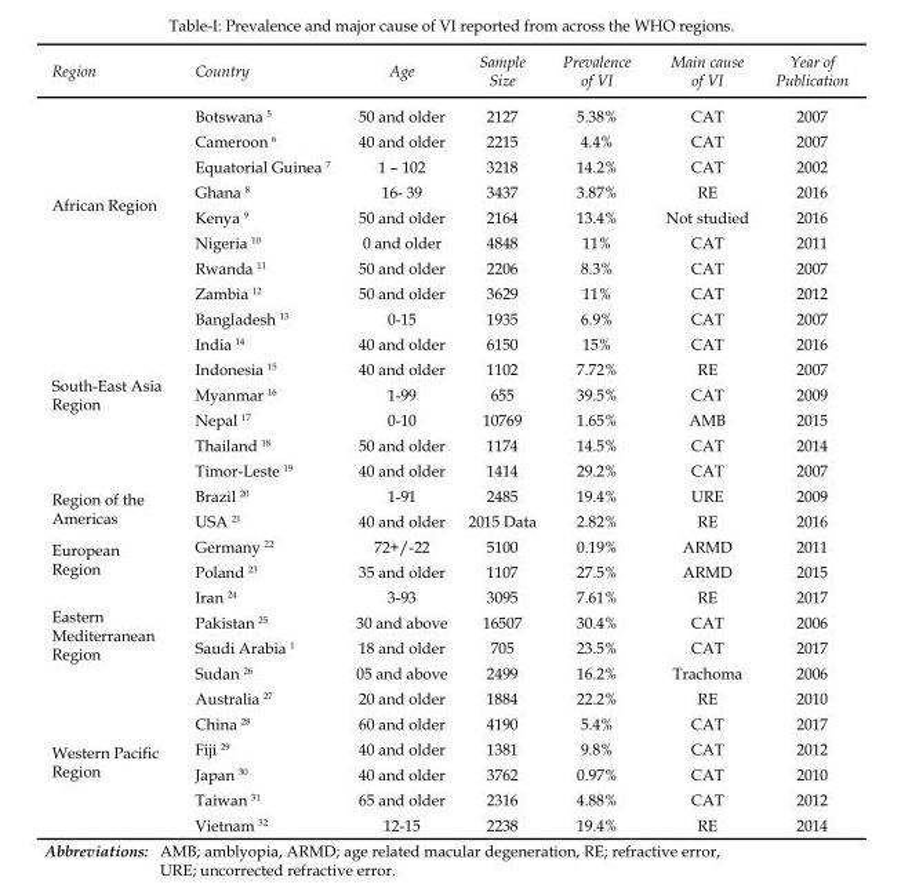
<table><thead><tr><td>Region</td><td>Country</td><td>Age</td><td>Sample Size</td><td>Prevalence of VI</td><td>Main cause of VI</td><td>Year of Publication</td></tr></thead><tbody><tr><td rowspan="8">African Region</td><td>Botswana <sup>5</sup></td><td>50 and older</td><td>2127</td><td>5.38%</td><td>CAT</td><td>2007</td></tr><tr><td>Cameroon <sup>6</sup></td><td>40 and older</td><td>2215</td><td>4.4%</td><td>CAT</td><td>2007</td></tr><tr><td>Equatorial Guinea <sup>7</sup></td><td>1 – 102</td><td>3218</td><td>14.2%</td><td>CAT</td><td>2002</td></tr><tr><td>Ghana <sup>8</sup></td><td>16- 39</td><td>3437</td><td>3.87%</td><td>RE</td><td>2016</td></tr><tr><td>Kenya <sup>9</sup></td><td>50 and older</td><td>2164</td><td>13.4%</td><td>Not studied</td><td>2016</td></tr><tr><td>Nigeria <sup>10</sup></td><td>0 and older</td><td>4848</td><td>11%</td><td>CAT</td><td>2011</td></tr><tr><td>Rwanda <sup>11</sup></td><td>50 and older</td><td>2206</td><td>8.3%</td><td>CAT</td><td>2007</td></tr><tr><td>Zambia <sup>12</sup></td><td>50 and older</td><td>3629</td><td>11%</td><td>CAT</td><td>2012</td></tr><tr><td rowspan="7">South-East Asia Region</td><td>Bangladesh <sup>13</sup></td><td>0-15</td><td>1935</td><td>6.9%</td><td>CAT</td><td>2007</td></tr><tr><td>India <sup>14</sup></td><td>40 and older</td><td>6150</td><td>15%</td><td>CAT</td><td>2016</td></tr><tr><td>Indonesia <sup>15</sup></td><td>40 and older</td><td>1102</td><td>7.72%</td><td>RE</td><td>2007</td></tr><tr><td>Myanmar <sup>16</sup></td><td>1-99</td><td>655</td><td>39.5%</td><td>CAT</td><td>2009</td></tr><tr><td>Nepal <sup>17</sup></td><td>0-10</td><td>10769</td><td>1.65%</td><td>AMB</td><td>2015</td></tr><tr><td>Thailand <sup>18</sup></td><td>50 and older</td><td>1174</td><td>14.5%</td><td>CAT</td><td>2014</td></tr><tr><td>Timor-Leste <sup>19</sup></td><td>40 and older</td><td>1414</td><td>29.2%</td><td>CAT</td><td>2007</td></tr><tr><td rowspan="2">Region of the Americas</td><td>Brazil <sup>20</sup></td><td>1-91</td><td>2485</td><td>19.4%</td><td>URE</td><td>2009</td></tr><tr><td>USA <sup>21</sup></td><td>40 and older</td><td>2015 Data</td><td>2.82%</td><td>RE</td><td>2016</td></tr><tr><td rowspan="2">European Region</td><td>Germany <sup>22</sup></td><td>72+/-22</td><td>5100</td><td>0.19%</td><td>ARMD</td><td>2011</td></tr><tr><td>Poland <sup>23</sup></td><td>35 and older</td><td>1107</td><td>27.5%</td><td>ARMD</td><td>2015</td></tr><tr><td rowspan="4">Eastern Mediterranean Region</td><td>Iran <sup>24</sup></td><td>3-93</td><td>3095</td><td>7.61%</td><td>RE</td><td>2017</td></tr><tr><td>Pakistan <sup>25</sup></td><td>30 and above</td><td>16507</td><td>30.4%</td><td>CAT</td><td>2006</td></tr><tr><td>Saudi Arabia <sup>1</sup></td><td>18 and older</td><td>705</td><td>23.5%</td><td>CAT</td><td>2017</td></tr><tr><td>Sudan <sup>26</sup></td><td>05 and above</td><td>2499</td><td>16.2%</td><td>Trachoma</td><td>2006</td></tr><tr><td rowspan="6">Western Pacific Region</td><td>Australia <sup>27</sup></td><td>20 and older</td><td>1884</td><td>22.2%</td><td>RE</td><td>2010</td></tr><tr><td>China <sup>28</sup></td><td>60 and older</td><td>4190</td><td>5.4%</td><td>CAT</td><td>2017</td></tr><tr><td>Fiji <sup>29</sup></td><td>40 and older</td><td>1381</td><td>9.8%</td><td>CAT</td><td>2012</td></tr><tr><td>Japan <sup>30</sup></td><td>40 and older</td><td>3762</td><td>0.97%</td><td>CAT</td><td>2010</td></tr><tr><td>Taiwan <sup>31</sup></td><td>65 and older</td><td>2316</td><td>4.88%</td><td>CAT</td><td>2012</td></tr><tr><td>Vietnam <sup>32</sup></td><td>12-15</td><td>2238</td><td>19.4%</td><td>RE</td><td>2014</td></tr></tbody></table>